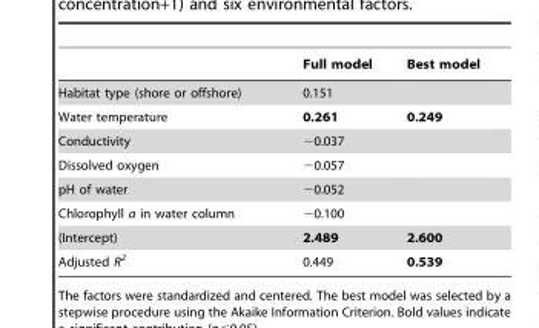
<table><thead><tr><td></td><td>Full model</td><td>Best model</td></tr></thead><tbody><tr><td>Habitat type (shore or offshore)</td><td>0.151</td><td></td></tr><tr><td>Water temperature</td><td>0.261</td><td>0.249</td></tr><tr><td>Conductivity</td><td>−0.037</td><td></td></tr><tr><td>Dissolved oxygen</td><td>−0.057</td><td></td></tr><tr><td>pH of water</td><td>−0.052</td><td></td></tr><tr><td>Chlorophyll a in water column</td><td>−0.100</td><td></td></tr><tr><td>(Intercept)</td><td>2.489</td><td>2.600</td></tr><tr><td>Adjusted R<sup>2</sup></td><td>0.449</td><td>0.539</td></tr></tbody></table>